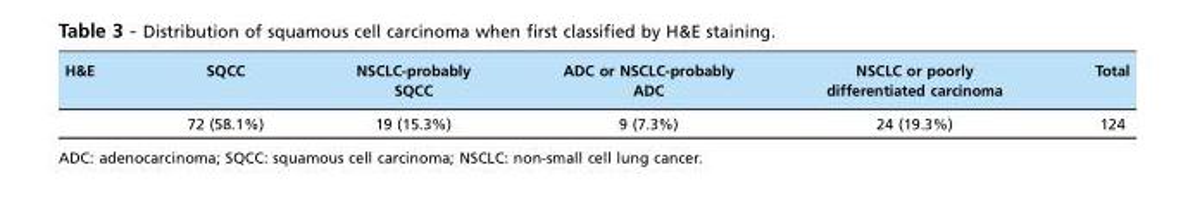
<table><thead><tr><td>H&amp;E</td><td>SQCC</td><td>NSCLC-probably SQCC</td><td>ADC or NSCLC-probably ADC</td><td>NSCLC or poorly differentiated carcinoma</td><td>Total</td></tr></thead><tbody><tr><td></td><td>72 (58.1%)</td><td>19 (15.3%)</td><td>9 (7.3%)</td><td>24 (19.3%)</td><td>124</td></tr></tbody></table>